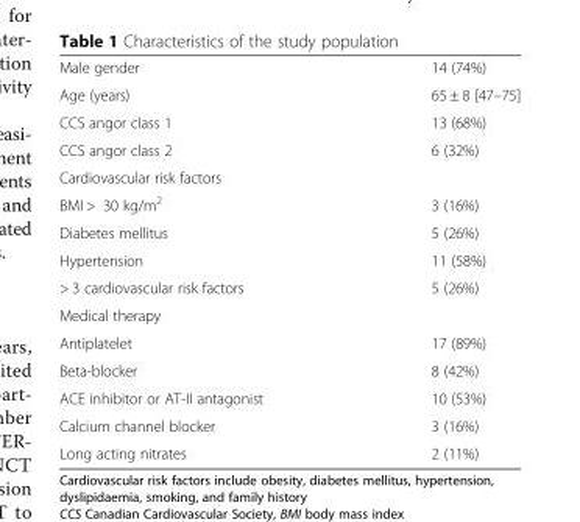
<table><tbody><tr><td>Male gender</td><td>14 (74%)</td></tr><tr><td>Age (years)</td><td>65 ± 8 [47–75]</td></tr><tr><td>CCS angor class 1</td><td>13 (68%)</td></tr><tr><td>CCS angor class 2</td><td>6 (32%)</td></tr><tr><td colspan="2">Cardiovascular risk factors</td></tr><tr><td>BMI &gt; 30 kg/m<sup>2</sup></td><td>3 (16%)</td></tr><tr><td>Diabetes mellitus</td><td>5 (26%)</td></tr><tr><td>Hypertension</td><td>11 (58%)</td></tr><tr><td>&gt; 3 cardiovascular risk factors</td><td>5 (26%)</td></tr><tr><td colspan="2">Medical therapy</td></tr><tr><td>Antiplatelet</td><td>17 (89%)</td></tr><tr><td>Beta-blocker</td><td>8 (42%)</td></tr><tr><td>ACE inhibitor or AT-II antagonist</td><td>10 (53%)</td></tr><tr><td>Calcium channel blocker</td><td>3 (16%)</td></tr><tr><td>Long acting nitrates</td><td>2 (11%)</td></tr></tbody></table>